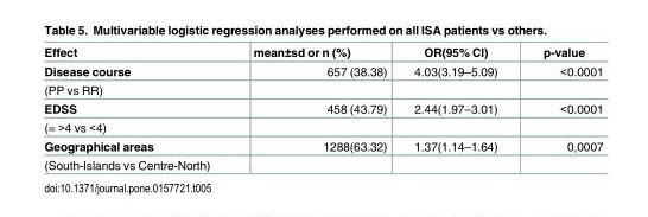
<table><thead><tr><td>Effect</td><td>mean±sd or n (%)</td><td>OR(95% CI)</td><td>p-value</td></tr></thead><tbody><tr><td>Disease course</td><td>657 (38.38)</td><td>4.03(3.19–5.09)</td><td>&lt;0.0001</td></tr><tr><td colspan="4">(PP vs RR)</td></tr><tr><td>EDSS</td><td>458 (43.79)</td><td>2.44(1.97–3.01)</td><td>&lt;0.0001</td></tr><tr><td colspan="4">(= &gt;4 vs &lt;4)</td></tr><tr><td>Geographical areas</td><td>1288(63.32)</td><td>1.37(1.14–1.64)</td><td>0,0007</td></tr><tr><td>(South-Islands vs Centre-North)</td><td></td><td></td><td></td></tr></tbody></table>